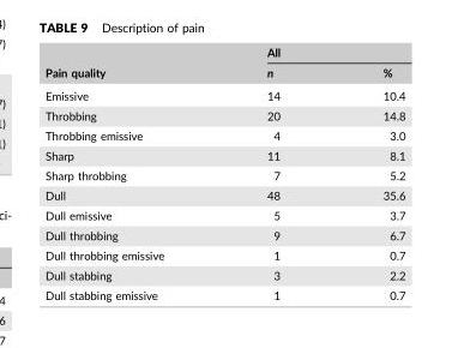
<table><thead><tr><td rowspan="2">Pain quality</td><td colspan="2">All</td></tr><tr><td>n</td><td>%</td></tr></thead><tbody><tr><td>Emissive</td><td>14</td><td>10.4</td></tr><tr><td>Throbbing</td><td>20</td><td>14.8</td></tr><tr><td>Throbbing emissive</td><td>4</td><td>3.0</td></tr><tr><td>Sharp</td><td>11</td><td>8.1</td></tr><tr><td>Sharp throbbing</td><td>7</td><td>5.2</td></tr><tr><td>Dull</td><td>48</td><td>35.6</td></tr><tr><td>Dull emissive</td><td>5</td><td>3.7</td></tr><tr><td>Dull throbbing</td><td>9</td><td>6.7</td></tr><tr><td>Dull throbbing emissive</td><td>1</td><td>0.7</td></tr><tr><td>Dull stabbing</td><td>3</td><td>2.2</td></tr><tr><td>Dull stabbing emissive</td><td>1</td><td>0.7</td></tr></tbody></table>